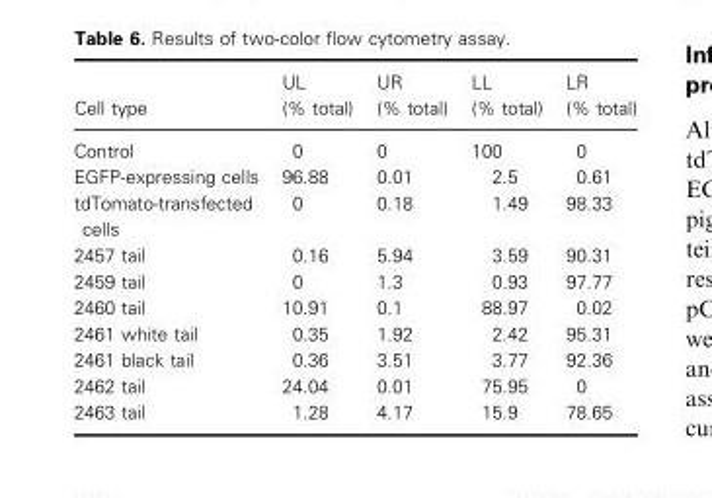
<table><thead><tr><td>Cell type</td><td>UL (% total)</td><td>UR (% total)</td><td>LL (% total)</td><td>LR (% total)</td></tr></thead><tbody><tr><td>Control</td><td>0</td><td>0</td><td>100</td><td>0</td></tr><tr><td>EGFP-expressing cells</td><td>96.88</td><td>0.01</td><td>2.5</td><td>0.61</td></tr><tr><td>tdTomato-transfected cells</td><td>0</td><td>0.18</td><td>1.49</td><td>98.33</td></tr><tr><td>2457 tail</td><td>0.16</td><td>5.94</td><td>3.59</td><td>90.31</td></tr><tr><td>2459 tail</td><td>0</td><td>1.3</td><td>0.93</td><td>97.77</td></tr><tr><td>2460 tail</td><td>10.91</td><td>0.1</td><td>88.97</td><td>0.02</td></tr><tr><td>2461 white tail</td><td>0.35</td><td>1.92</td><td>2.42</td><td>95.31</td></tr><tr><td>2461 black tail</td><td>0.36</td><td>3.51</td><td>3.77</td><td>92.36</td></tr><tr><td>2462 tail</td><td>24.04</td><td>0.01</td><td>75.95</td><td>0</td></tr><tr><td>2463 tail</td><td>1.28</td><td>4.17</td><td>15.9</td><td>78.65</td></tr></tbody></table>